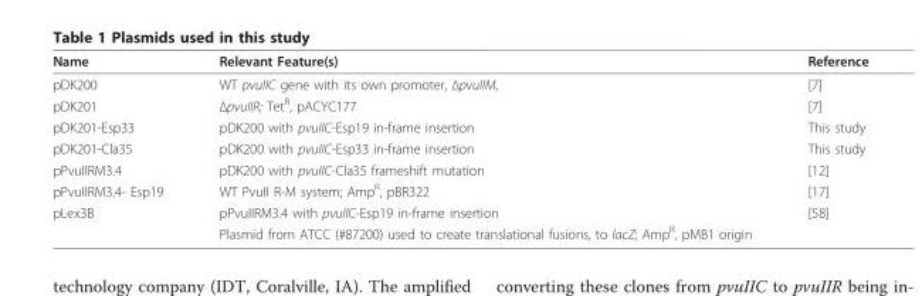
<table><thead><tr><td>Name</td><td>Relevant Feature(s)</td><td>Reference</td></tr></thead><tbody><tr><td>pDK200</td><td>WT pvuIIC gene with its own promoter, ΔpvuIIM,</td><td>[7]</td></tr><tr><td>pDK201</td><td>ΔpvuIIR; Tet<sup>R</sup>, pACYC177</td><td>[7]</td></tr><tr><td>pDK201-Esp33</td><td>pDK200 with pvuIIC-Esp19 in-frame insertion</td><td>This study</td></tr><tr><td>pDK201-Cla35</td><td>pDK200 with pvuIIC-Esp33 in-frame insertion</td><td>This study</td></tr><tr><td>pPvuIIRM3.4</td><td>pDK200 with pvuIIC-Cla35 frameshift mutation</td><td>[12]</td></tr><tr><td>pPvuIIRM3.4- Esp19</td><td>WT PvuII R-M system; Amp<sup>R</sup>, pBR322</td><td>[17]</td></tr><tr><td rowspan="2">pLex3B</td><td>pPvuIIRM3.4 with pvuIIC-Esp19 in-frame insertion</td><td>[58]</td></tr><tr><td>Plasmid from ATCC (#87200) used to create translational fusions, to lacZ; Amp<sup>R</sup>, pMB1 origin</td><td></td></tr></tbody></table>